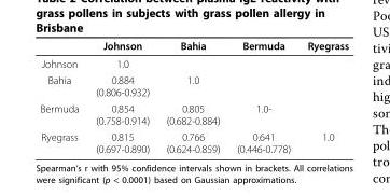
<table><thead><tr><td></td><td>Johnson</td><td>Bahia</td><td>Bermuda</td><td>Ryegrass</td></tr></thead><tbody><tr><td>Johnson</td><td>1.0</td><td></td><td></td><td></td></tr><tr><td>Bahia</td><td>0.884 (0.806-0.932)</td><td>1.0</td><td></td><td></td></tr><tr><td>Bermuda</td><td>0.854 (0.758-0.914)</td><td>0.805 (0.682-0.884)</td><td>1.0-</td><td></td></tr><tr><td>Ryegrass</td><td>0.815 (0.697-0.890)</td><td>0.766 (0.624-0.859)</td><td>0.641 (0.446-0.778)</td><td>1.0</td></tr></tbody></table>